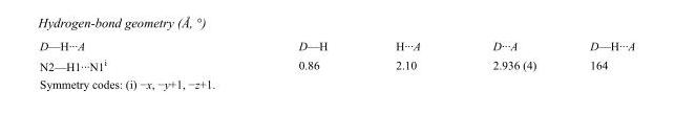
<table><tbody><tr><td>D—H···A</td><td>D—H</td><td>H···A</td><td>D···A</td><td>D—H···A</td></tr><tr><td>N2—H1···N1<sup>i</sup></td><td>0.86</td><td>2.10</td><td>2.936 (4)</td><td>164</td></tr></tbody></table>